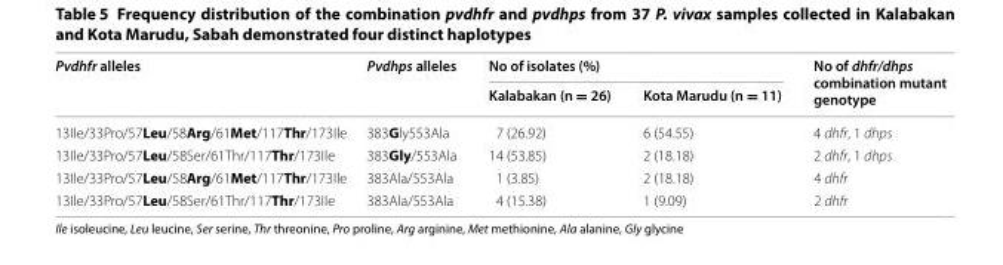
<table><thead><tr><td rowspan="2">Pvdhfr alleles</td><td rowspan="2">Pvdhps alleles</td><td colspan="2">No of isolates (%)</td><td rowspan="2">No of dhfr/dhps combination mutant genotype</td></tr><tr><td>Kalabakan (n = 26)</td><td>Kota Marudu (n = 11)</td></tr></thead><tbody><tr><td>13Ile/33Pro/57Leu/58Arg/61Met/117Thr/173Ile</td><td>383Gly553Ala</td><td>7 (26.92)</td><td>6 (54.55)</td><td>4 dhfr, 1 dhps</td></tr><tr><td>13Ile/33Pro/57Leu/58Ser/61Thr/117Thr/173Ile</td><td>383Gly/553Ala</td><td>14 (53.85)</td><td>2 (18.18)</td><td>2 dhfr, 1 dhps</td></tr><tr><td>13Ile/33Pro/57Leu/58Arg/61Met/117Thr/173Ile</td><td>383Ala/553Ala</td><td>1 (3.85)</td><td>2 (18.18)</td><td>4 dhfr</td></tr><tr><td>13Ile/33Pro/57Leu/58Ser/61Thr/117Thr/173Ile</td><td>383Ala/553Ala</td><td>4 (15.38)</td><td>1 (9.09)</td><td>2 dhfr</td></tr></tbody></table>